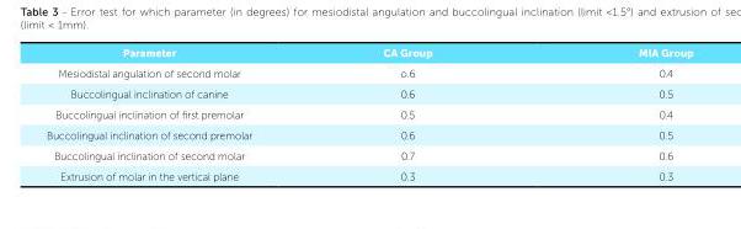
<table><tbody><tr><td>Parameter</td><td>CA Group</td><td>MIA Group</td></tr><tr><td>Mesiodistal angulation of second molar</td><td>o.6</td><td>0.4</td></tr><tr><td>Buccolingual inclination of canine</td><td>0.6</td><td>0.5</td></tr><tr><td>Buccolingual inclination of first premolar</td><td>0.5</td><td>0.4</td></tr><tr><td>Buccolingual inclination of second premolar</td><td>0.6</td><td>0.5</td></tr><tr><td>Buccolingual inclination of second molar</td><td>0.7</td><td>0.6</td></tr><tr><td>Extrusion of molar in the vertical plane</td><td>0.3</td><td>0.3</td></tr></tbody></table>